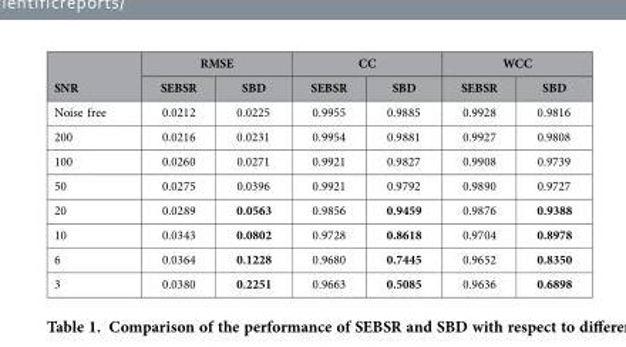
<table><thead><tr><td rowspan="2">SNR</td><td colspan="2">RMSE</td><td colspan="2">CC</td><td colspan="2">WCC</td></tr><tr><td>SEBSR</td><td>SBD</td><td>SEBSR</td><td>SBD</td><td>SEBSR</td><td>SBD</td></tr></thead><tbody><tr><td>Noise free</td><td>0.0212</td><td>0.0225</td><td>0.9955</td><td>0.9885</td><td>0.9928</td><td>0.9816</td></tr><tr><td>200</td><td>0.0216</td><td>0.0231</td><td>0.9954</td><td>0.9881</td><td>0.9927</td><td>0.9808</td></tr><tr><td>100</td><td>0.0260</td><td>0.0271</td><td>0.9921</td><td>0.9827</td><td>0.9908</td><td>0.9739</td></tr><tr><td>50</td><td>0.0275</td><td>0.0396</td><td>0.9921</td><td>0.9792</td><td>0.9890</td><td>0.9727</td></tr><tr><td>20</td><td>0.0289</td><td>0.0563</td><td>0.9856</td><td>0.9459</td><td>0.9876</td><td>0.9388</td></tr><tr><td>10</td><td>0.0343</td><td>0.0802</td><td>0.9728</td><td>0.8618</td><td>0.9704</td><td>0.8978</td></tr><tr><td>6</td><td>0.0364</td><td>0.1228</td><td>0.9680</td><td>0.7445</td><td>0.9652</td><td>0.8350</td></tr><tr><td>3</td><td>0.0380</td><td>0.2251</td><td>0.9663</td><td>0.5085</td><td>0.9636</td><td>0.6898</td></tr></tbody></table>